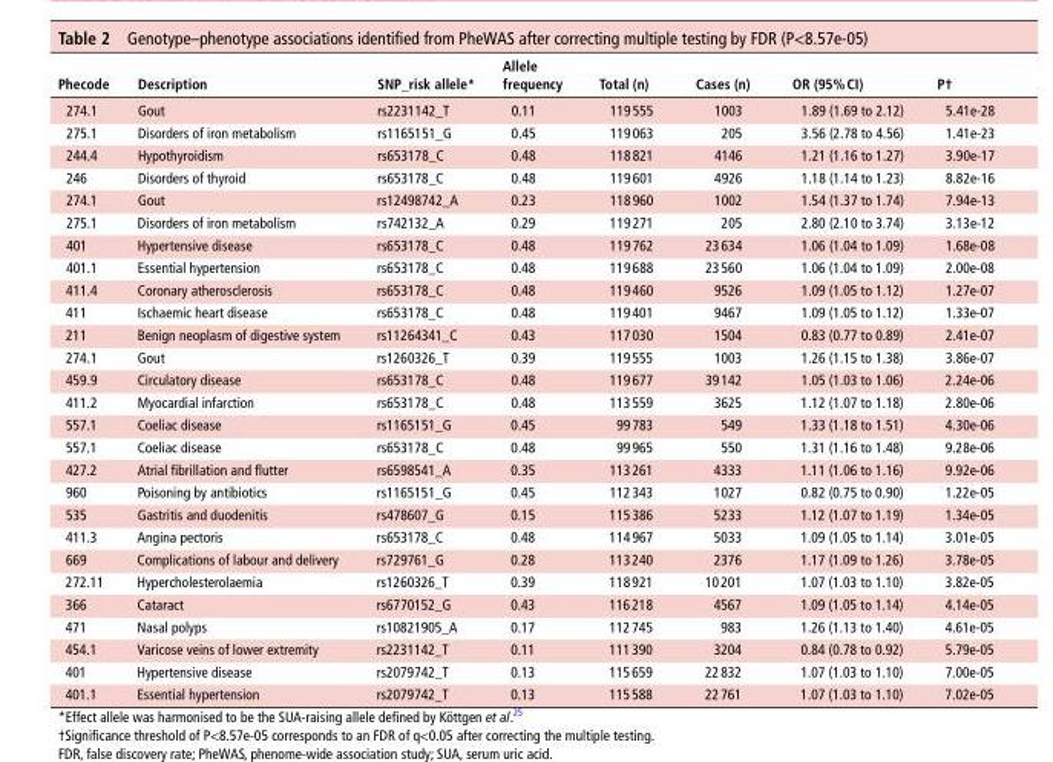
<table><thead><tr><td>Phecode</td><td>description</td><td>snP_risk allele*</td><td>Allele frequency</td><td>total (n)</td><td>Cases (n)</td><td>Or (95% CI)</td><td>P†</td></tr></thead><tbody><tr><td>274.1</td><td>Gout</td><td>rs2231142_T</td><td>0.11</td><td>119 555</td><td>1003</td><td>1.89 (1.69 to 2.12)</td><td>5.41e-28</td></tr><tr><td>275.1</td><td>Disorders of iron metabolism</td><td>rs1165151_G</td><td>0.45</td><td>119 063</td><td>205</td><td>3.56 (2.78 to 4.56)</td><td>1.41e-23</td></tr><tr><td>244.4</td><td>Hypothyroidism</td><td>rs653178_C</td><td>0.48</td><td>118 821</td><td>4146</td><td>1.21 (1.16 to 1.27)</td><td>3.90e-17</td></tr><tr><td>246</td><td>Disorders of thyroid</td><td>rs653178_C</td><td>0.48</td><td>119 601</td><td>4926</td><td>1.18 (1.14 to 1.23)</td><td>8.82e-16</td></tr><tr><td>274.1</td><td>Gout</td><td>rs12498742_A</td><td>0.23</td><td>118 960</td><td>1002</td><td>1.54 (1.37 to 1.74)</td><td>7.94e-13</td></tr><tr><td>275.1</td><td>Disorders of iron metabolism</td><td>rs742132_A</td><td>0.29</td><td>119 271</td><td>205</td><td>2.80 (2.10 to 3.74)</td><td>3.13e-12</td></tr><tr><td>401</td><td>Hypertensive disease</td><td>rs653178_C</td><td>0.48</td><td>119 762</td><td>23 634</td><td>1.06 (1.04 to 1.09)</td><td>1.68e-08</td></tr><tr><td>401.1</td><td>Essential hypertension</td><td>rs653178_C</td><td>0.48</td><td>119 688</td><td>23 560</td><td>1.06 (1.04 to 1.09)</td><td>2.00e-08</td></tr><tr><td>411.4</td><td>Coronary atherosclerosis</td><td>rs653178_C</td><td>0.48</td><td>119 460</td><td>9526</td><td>1.09 (1.05 to 1.12)</td><td>1.27e-07</td></tr><tr><td>411</td><td>Ischaemic heart disease</td><td>rs653178_C</td><td>0.48</td><td>119 401</td><td>9467</td><td>1.09 (1.05 to 1.12)</td><td>1.33e-07</td></tr><tr><td>211</td><td>Benign neoplasm of digestive system</td><td>rs11264341_C</td><td>0.43</td><td>117 030</td><td>1504</td><td>0.83 (0.77 to 0.89)</td><td>2.41e-07</td></tr><tr><td>274.1</td><td>Gout</td><td>rs1260326_T</td><td>0.39</td><td>119 555</td><td>1003</td><td>1.26 (1.15 to 1.38)</td><td>3.86e-07</td></tr><tr><td>459.9</td><td>Circulatory disease</td><td>rs653178_C</td><td>0.48</td><td>119 677</td><td>39 142</td><td>1.05 (1.03 to 1.06)</td><td>2.24e-06</td></tr><tr><td>411.2</td><td>Myocardial infarction</td><td>rs653178_C</td><td>0.48</td><td>113 559</td><td>3625</td><td>1.12 (1.07 to 1.18)</td><td>2.80e-06</td></tr><tr><td>557.1</td><td>Coeliac disease</td><td>rs1165151_G</td><td>0.45</td><td>99 783</td><td>549</td><td>1.33 (1.18 to 1.51)</td><td>4.30e-06</td></tr><tr><td>557.1</td><td>Coeliac disease</td><td>rs653178_C</td><td>0.48</td><td>99 965</td><td>550</td><td>1.31 (1.16 to 1.48)</td><td>9.28e-06</td></tr><tr><td>427.2</td><td>Atrial fibrillation and flutter</td><td>rs6598541_A</td><td>0.35</td><td>113 261</td><td>4333</td><td>1.11 (1.06 to 1.16)</td><td>9.92e-06</td></tr><tr><td>960</td><td>Poisoning by antibiotics</td><td>rs1165151_G</td><td>0.45</td><td>112 343</td><td>1027</td><td>0.82 (0.75 to 0.90)</td><td>1.22e-05</td></tr><tr><td>535</td><td>Gastritis and duodenitis</td><td>rs478607_G</td><td>0.15</td><td>115 386</td><td>5233</td><td>1.12 (1.07 to 1.19)</td><td>1.34e-05</td></tr><tr><td>411.3</td><td>Angina pectoris</td><td>rs653178_C</td><td>0.48</td><td>114 967</td><td>5033</td><td>1.09 (1.05 to 1.14)</td><td>3.01e-05</td></tr><tr><td>669</td><td>Complications of labour and delivery</td><td>rs729761_G</td><td>0.28</td><td>113 240</td><td>2376</td><td>1.17 (1.09 to 1.26)</td><td>3.78e-05</td></tr><tr><td>272.11</td><td>Hypercholesterolaemia</td><td>rs1260326_T</td><td>0.39</td><td>118 921</td><td>10 201</td><td>1.07 (1.03 to 1.10)</td><td>3.82e-05</td></tr><tr><td>366</td><td>Cataract</td><td>rs6770152_G</td><td>0.43</td><td>116 218</td><td>4567</td><td>1.09 (1.05 to 1.14)</td><td>4.14e-05</td></tr><tr><td>471</td><td>Nasal polyps</td><td>rs10821905_A</td><td>0.17</td><td>112 745</td><td>983</td><td>1.26 (1.13 to 1.40)</td><td>4.61e-05</td></tr><tr><td>454.1</td><td>Varicose veins of lower extremity</td><td>rs2231142_T</td><td>0.11</td><td>111 390</td><td>3204</td><td>0.84 (0.78 to 0.92)</td><td>5.79e-05</td></tr><tr><td>401</td><td>Hypertensive disease</td><td>rs2079742_T</td><td>0.13</td><td>115 659</td><td>22 832</td><td>1.07 (1.03 to 1.10)</td><td>7.00e-05</td></tr><tr><td>401.1</td><td>Essential hypertension</td><td>rs2079742_T</td><td>0.13</td><td>115 588</td><td>22 761</td><td>1.07 (1.03 to 1.10)</td><td>7.02e-05</td></tr></tbody></table>